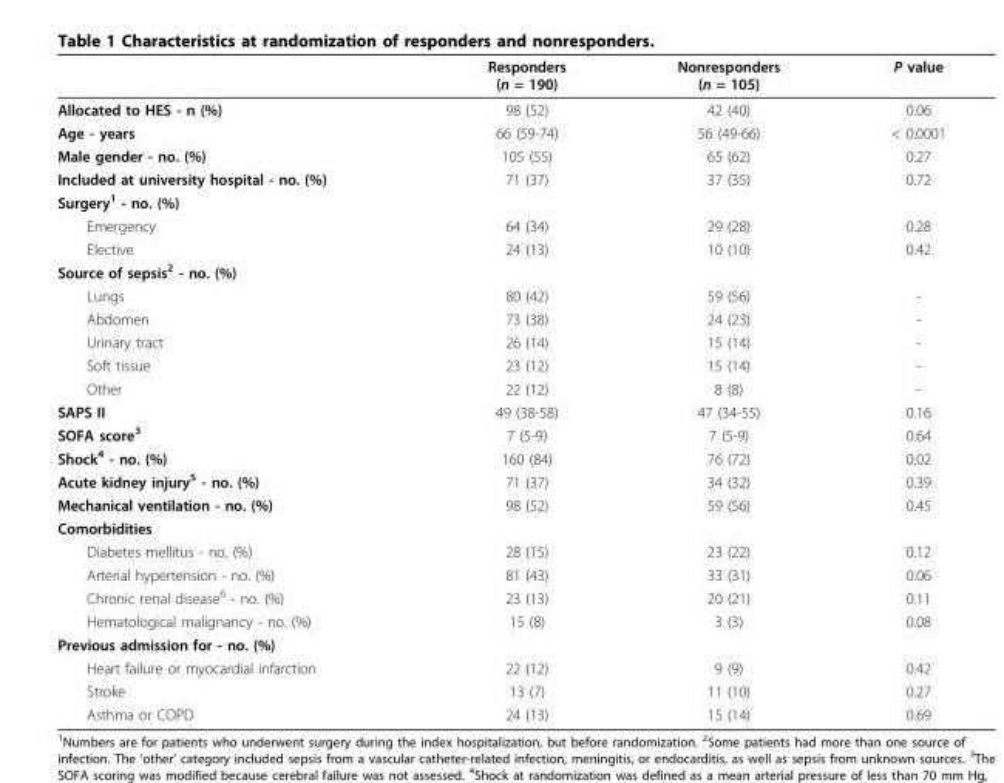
<table><thead><tr><td></td><td>Responders (n = 190)</td><td>Nonresponders (n = 105)</td><td>P value</td></tr></thead><tbody><tr><td>Allocated to HES - n (%)</td><td>98 (52)</td><td>42 (40)</td><td>0.06</td></tr><tr><td>Age - years</td><td>66 (59-74)</td><td>56 (49-66)</td><td>&lt; 0.0001</td></tr><tr><td>Male gender - no. (%)</td><td>105 (55)</td><td>65 (62)</td><td>0.27</td></tr><tr><td>Included at university hospital - no. (%)</td><td>71 (37)</td><td>37 (35)</td><td>0.72</td></tr><tr><td colspan="4">Surgery<sup>1</sup> - no. (%)</td></tr><tr><td>Emergency</td><td>64 (34)</td><td>29 (28)</td><td>0.28</td></tr><tr><td>Elective</td><td>24 (13)</td><td>10 (10)</td><td>0.42</td></tr><tr><td colspan="4">Source of sepsis<sup>2</sup> - no. (%)</td></tr><tr><td>Lungs</td><td>80 (42)</td><td>59 (56)</td><td>-</td></tr><tr><td>Abdomen</td><td>73 (38)</td><td>24 (23)</td><td>-</td></tr><tr><td>Urinary tract</td><td>26 (14)</td><td>15 (14)</td><td>-</td></tr><tr><td>Soft tissue</td><td>23 (12)</td><td>15 (14)</td><td>-</td></tr><tr><td>Other</td><td>22 (12)</td><td>8 (8)</td><td>-</td></tr><tr><td>SAPS II</td><td>49 (38-58)</td><td>47 (34-55)</td><td>0.16</td></tr><tr><td>SOFA score<sup>3</sup></td><td>7 (5-9)</td><td>7 (5-9)</td><td>0.64</td></tr><tr><td>Shock<sup>4</sup> - no. (%)</td><td>160 (84)</td><td>76 (72)</td><td>0.02</td></tr><tr><td>Acute kidney injury<sup>5</sup> - no. (%)</td><td>71 (37)</td><td>34 (32)</td><td>0.39</td></tr><tr><td>Mechanical ventilation - no. (%)</td><td>98 (52)</td><td>59 (56)</td><td>0.45</td></tr><tr><td colspan="4">Comorbidities</td></tr><tr><td>Diabetes mellitus - no. (%)</td><td>28 (15)</td><td>23 (22)</td><td>0.12</td></tr><tr><td>Arterial hypertension - no. (%)</td><td>81 (43)</td><td>33 (31)</td><td>0.06</td></tr><tr><td>Chronic renal disease<sup>6</sup> - no. (%)</td><td>23 (13)</td><td>20 (21)</td><td>0.11</td></tr><tr><td>Hematological malignancy - no. (%)</td><td>15 (8)</td><td>3 (3)</td><td>0.08</td></tr><tr><td colspan="4">Previous admission for - no. (%)</td></tr><tr><td>Heart failure or myocardial infarction</td><td>22 (12)</td><td>9 (9)</td><td>0.42</td></tr><tr><td>Stroke</td><td>13 (7)</td><td>11 (10)</td><td>0.27</td></tr><tr><td>Asthma or COPD</td><td>24 (13)</td><td>15 (14)</td><td>0.69</td></tr></tbody></table>